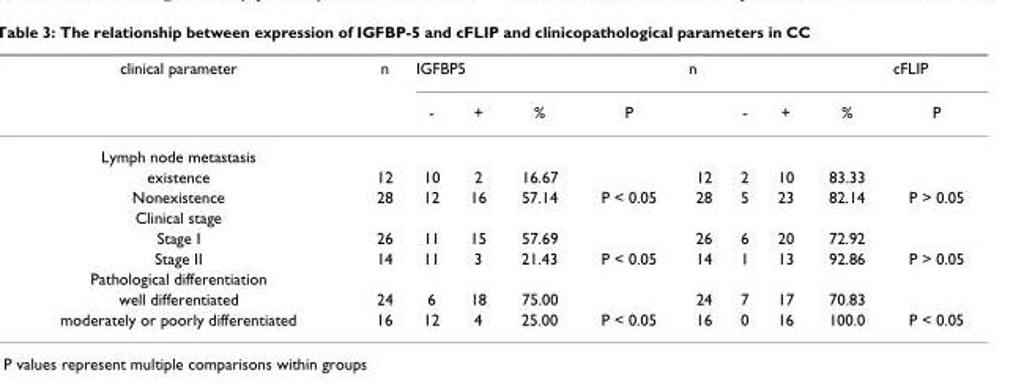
<table><thead><tr><td rowspan="2">clinical parameter</td><td rowspan="2">n</td><td colspan="4">IGFBP5</td><td colspan="4">n</td><td rowspan="2">cFLIP P</td></tr><tr><td>-</td><td>+</td><td>%</td><td>P</td><td></td><td>-</td><td>+</td><td>%</td></tr></thead><tbody><tr><td colspan="11">Lymph node metastasis</td></tr><tr><td>existence</td><td>12</td><td>10</td><td>2</td><td>16.67</td><td></td><td>12</td><td>2</td><td>10</td><td>83.33</td><td></td></tr><tr><td>Nonexistence</td><td>28</td><td>12</td><td>16</td><td>57.14</td><td>P &lt; 0.05</td><td>28</td><td>5</td><td>23</td><td>82.14</td><td>P &gt; 0.05</td></tr><tr><td colspan="11">Clinical stage</td></tr><tr><td>Stage I</td><td>26</td><td>11</td><td>15</td><td>57.69</td><td></td><td>26</td><td>6</td><td>20</td><td>72.92</td><td></td></tr><tr><td>Stage II</td><td>14</td><td>11</td><td>3</td><td>21.43</td><td>P &lt; 0.05</td><td>14</td><td>1</td><td>13</td><td>92.86</td><td>P &gt; 0.05</td></tr><tr><td colspan="11">Pathological differentiation</td></tr><tr><td>well differentiated</td><td>24</td><td>6</td><td>18</td><td>75.00</td><td></td><td>24</td><td>7</td><td>17</td><td>70.83</td><td></td></tr><tr><td>moderately or poorly differentiated</td><td>16</td><td>12</td><td>4</td><td>25.00</td><td>P &lt; 0.05</td><td>16</td><td>0</td><td>16</td><td>100.0</td><td>P &lt; 0.05</td></tr></tbody></table>